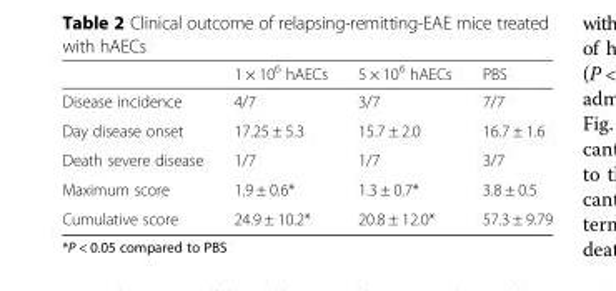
<table><thead><tr><td></td><td>1 × 10<sup>6</sup> hAECs</td><td>5 × 10<sup>6</sup> hAECs</td><td>PBS</td></tr></thead><tbody><tr><td>Disease incidence</td><td>4/7</td><td>3/7</td><td>7/7</td></tr><tr><td>Day disease onset</td><td>17.25 ± 5.3</td><td>15.7 ± 2.0</td><td>16.7 ± 1.6</td></tr><tr><td>Death severe disease</td><td>1/7</td><td>1/7</td><td>3/7</td></tr><tr><td>Maximum score</td><td>1.9 ± 0.6*</td><td>1.3 ± 0.7*</td><td>3.8 ± 0.5</td></tr><tr><td>Cumulative score</td><td>24.9 ± 10.2*</td><td>20.8 ± 12.0*</td><td>57.3 ± 9.79</td></tr></tbody></table>